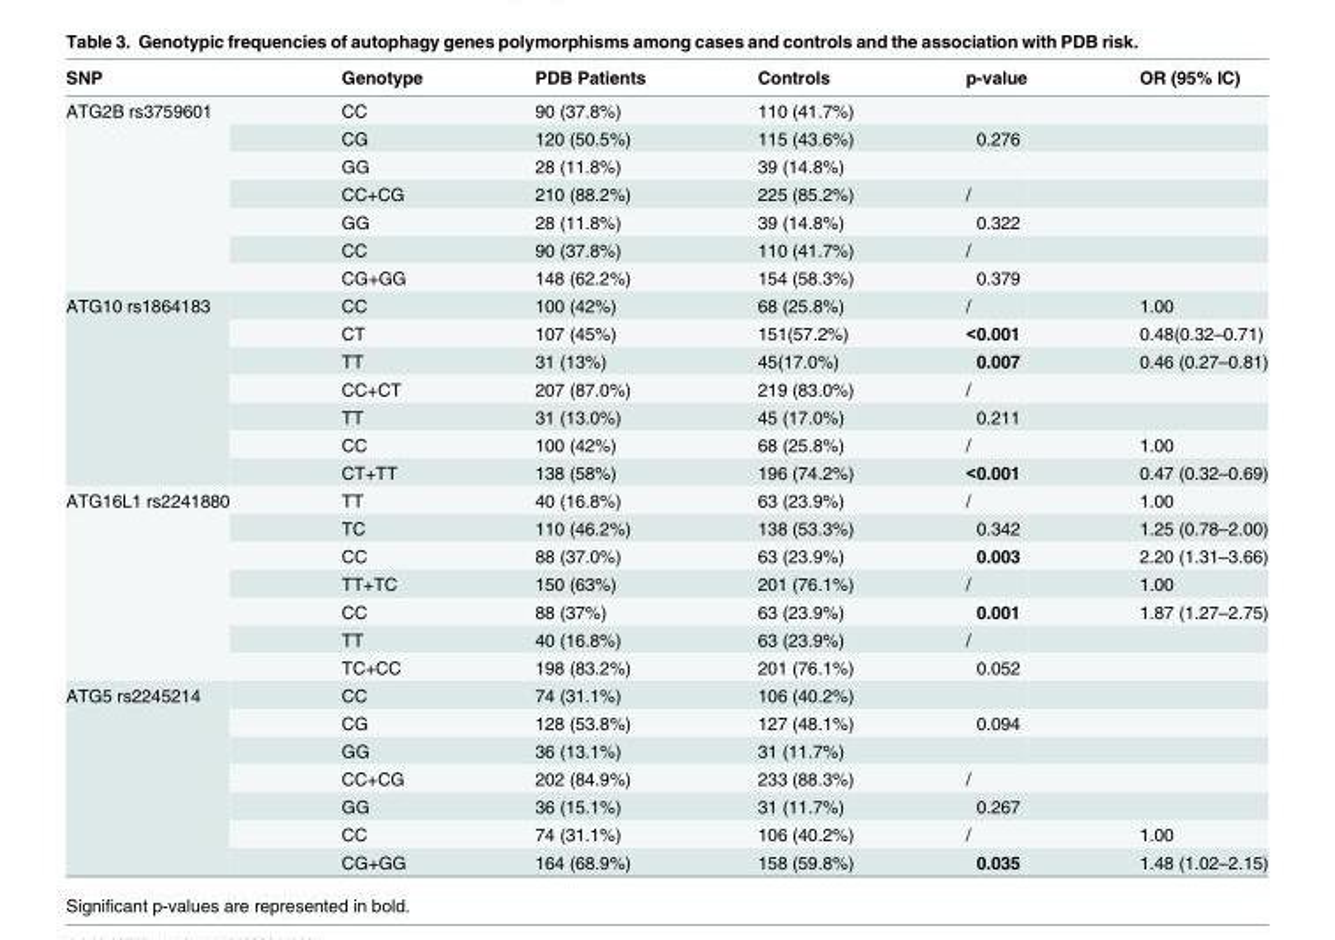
<table><thead><tr><td>SNP</td><td>Genotype</td><td>PDB Patients</td><td>Controls</td><td>p-value</td><td>OR (95% IC)</td></tr></thead><tbody><tr><td rowspan="7">ATG2B rs3759601</td><td>CC</td><td>90 (37.8%)</td><td>110 (41.7%)</td><td></td><td></td></tr><tr><td>CG</td><td>120 (50.5%)</td><td>115 (43.6%)</td><td>0.276</td><td></td></tr><tr><td>GG</td><td>28 (11.8%)</td><td>39 (14.8%)</td><td></td><td></td></tr><tr><td>CC+CG</td><td>210 (88.2%)</td><td>225 (85.2%)</td><td>/</td><td></td></tr><tr><td>GG</td><td>28 (11.8%)</td><td>39 (14.8%)</td><td>0.322</td><td></td></tr><tr><td>CC</td><td>90 (37.8%)</td><td>110 (41.7%)</td><td>/</td><td></td></tr><tr><td>CG+GG</td><td>148 (62.2%)</td><td>154 (58.3%)</td><td>0.379</td><td></td></tr><tr><td rowspan="7">ATG10 rs1864183</td><td>CC</td><td>100 (42%)</td><td>68 (25.8%)</td><td>/</td><td>1.00</td></tr><tr><td>CT</td><td>107 (45%)</td><td>151(57.2%)</td><td>&lt;0.001</td><td>0.48(0.32–0.71)</td></tr><tr><td>TT</td><td>31 (13%)</td><td>45(17.0%)</td><td>0.007</td><td>0.46 (0.27–0.81)</td></tr><tr><td>CC+CT</td><td>207 (87.0%)</td><td>219 (83.0%)</td><td>/</td><td></td></tr><tr><td>TT</td><td>31 (13.0%)</td><td>45 (17.0%)</td><td>0.211</td><td></td></tr><tr><td>CC</td><td>100 (42%)</td><td>68 (25.8%)</td><td>/</td><td>1.00</td></tr><tr><td>CT+TT</td><td>138 (58%)</td><td>196 (74.2%)</td><td>&lt;0.001</td><td>0.47 (0.32–0.69)</td></tr><tr><td rowspan="7">ATG16L1 rs2241880</td><td>TT</td><td>40 (16.8%)</td><td>63 (23.9%)</td><td>/</td><td>1.00</td></tr><tr><td>TC</td><td>110 (46.2%)</td><td>138 (53.3%)</td><td>0.342</td><td>1.25 (0.78–2.00)</td></tr><tr><td>CC</td><td>88 (37.0%)</td><td>63 (23.9%)</td><td>0.003</td><td>2.20 (1.31–3.66)</td></tr><tr><td>TT+TC</td><td>150 (63%)</td><td>201 (76.1%)</td><td>/</td><td>1.00</td></tr><tr><td>CC</td><td>88 (37%)</td><td>63 (23.9%)</td><td>0.001</td><td>1.87 (1.27–2.75)</td></tr><tr><td>TT</td><td>40 (16.8%)</td><td>63 (23.9%)</td><td>/</td><td></td></tr><tr><td>TC+CC</td><td>198 (83.2%)</td><td>201 (76.1%)</td><td>0.052</td><td></td></tr><tr><td rowspan="7">ATG5 rs2245214</td><td>CC</td><td>74 (31.1%)</td><td>106 (40.2%)</td><td></td><td></td></tr><tr><td>CG</td><td>128 (53.8%)</td><td>127 (48.1%)</td><td>0.094</td><td></td></tr><tr><td>GG</td><td>36 (13.1%)</td><td>31 (11.7%)</td><td></td><td></td></tr><tr><td>CC+CG</td><td>202 (84.9%)</td><td>233 (88.3%)</td><td>/</td><td></td></tr><tr><td>GG</td><td>36 (15.1%)</td><td>31 (11.7%)</td><td>0.267</td><td></td></tr><tr><td>CC</td><td>74 (31.1%)</td><td>106 (40.2%)</td><td>/</td><td>1.00</td></tr><tr><td>CG+GG</td><td>164 (68.9%)</td><td>158 (59.8%)</td><td>0.035</td><td>1.48 (1.02–2.15)</td></tr></tbody></table>